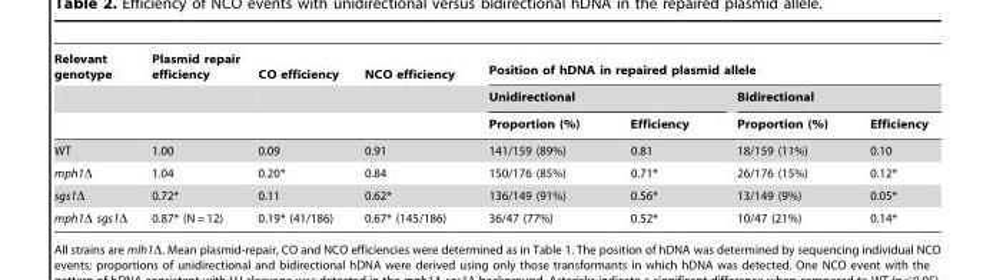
<table><thead><tr><td rowspan="3">Relevant genotype</td><td rowspan="3">Plasmid repair efficiency</td><td rowspan="3">CO efficiency</td><td rowspan="3">NCO efficiency</td><td colspan="4">Position of hDNA in repaired plasmid allele</td></tr><tr><td colspan="2">Unidirectional</td><td colspan="2">Bidirectional</td></tr><tr><td>Proportion (%)</td><td>Efficiency</td><td>Proportion (%)</td><td>Efficiency</td></tr></thead><tbody><tr><td>WT</td><td>1.00</td><td>0.09</td><td>0.91</td><td>141/159 (89%)</td><td>0.81</td><td>18/159 (11%)</td><td>0.10</td></tr><tr><td>mph1Δ</td><td>1.04</td><td>0.20*</td><td>0.84</td><td>150/176 (85%)</td><td>0.71*</td><td>26/176 (15%)</td><td>0.12*</td></tr><tr><td>sgs1Δ</td><td>0.72*</td><td>0.11</td><td>0.62*</td><td>136/149 (91%)</td><td>0.56*</td><td>13/149 (9%)</td><td>0.05*</td></tr><tr><td>mph1Δ sgs1Δ</td><td>0.87* (N = 12)</td><td>0.19* (41/186)</td><td>0.67* (145/186)</td><td>36/47 (77%)</td><td>0.52*</td><td>10/47 (21%)</td><td>0.14*</td></tr></tbody></table>